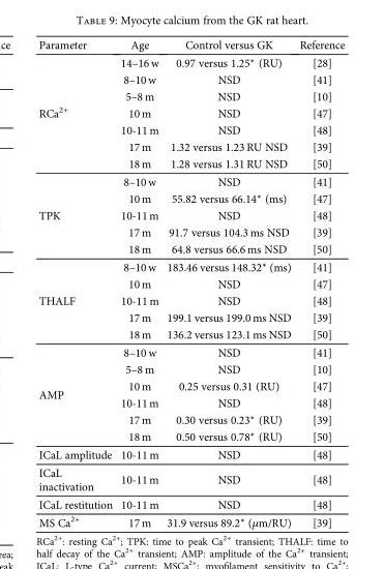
<table><thead><tr><td>Parameter</td><td>Age</td><td>Control versus GK</td><td>Reference</td></tr></thead><tbody><tr><td rowspan="7">RCa<sup>2+</sup></td><td>14–16 w</td><td>0.97 versus 1.25∗ (RU)</td><td>[28]</td></tr><tr><td>8–10 w</td><td>NSD</td><td>[41]</td></tr><tr><td>5–8 m</td><td>NSD</td><td>[10]</td></tr><tr><td>10 m</td><td>NSD</td><td>[47]</td></tr><tr><td>10-11 m</td><td>NSD</td><td>[48]</td></tr><tr><td>17 m</td><td>1.32 versus 1.23 RU NSD</td><td>[39]</td></tr><tr><td>18 m</td><td>1.28 versus 1.31 RU NSD</td><td>[50]</td></tr><tr><td rowspan="5">TPK</td><td>8–10 w</td><td>NSD</td><td>[41]</td></tr><tr><td>10 m</td><td>55.82 versus 66.14∗ (ms)</td><td>[47]</td></tr><tr><td>10-11 m</td><td>NSD</td><td>[48]</td></tr><tr><td>17 m</td><td>91.7 versus 104.3 ms NSD</td><td>[39]</td></tr><tr><td>18 m</td><td>64.8 versus 66.6 ms NSD</td><td>[50]</td></tr><tr><td rowspan="5">THALF</td><td>8–10 w</td><td>183.46 versus 148.32∗ (ms)</td><td>[41]</td></tr><tr><td>10 m</td><td>NSD</td><td>[47]</td></tr><tr><td>10-11 m</td><td>NSD</td><td>[48]</td></tr><tr><td>17 m</td><td>199.1 versus 199.0 ms NSD</td><td>[39]</td></tr><tr><td>18 m</td><td>136.2 versus 123.1 ms NSD</td><td>[50]</td></tr><tr><td rowspan="6">AMP</td><td>8–10 w</td><td>NSD</td><td>[41]</td></tr><tr><td>5–8 m</td><td>NSD</td><td>[10]</td></tr><tr><td>10 m</td><td>0.25 versus 0.31 (RU)</td><td>[47]</td></tr><tr><td>10-11 m</td><td>NSD</td><td>[48]</td></tr><tr><td>17 m</td><td>0.30 versus 0.23∗ (RU)</td><td>[39]</td></tr><tr><td>18 m</td><td>0.50 versus 0.78∗ (RU)</td><td>[50]</td></tr><tr><td>ICaL amplitude</td><td>10-11 m</td><td>NSD</td><td>[48]</td></tr><tr><td>ICaL inactivation</td><td>10-11 m</td><td>NSD</td><td>[48]</td></tr><tr><td>ICaL restitution</td><td>10-11 m</td><td>NSD</td><td>[48]</td></tr><tr><td>MS Ca2+</td><td>17 m</td><td>31.9 versus 89.2∗ (μm/RU)</td><td>[39]</td></tr></tbody></table>